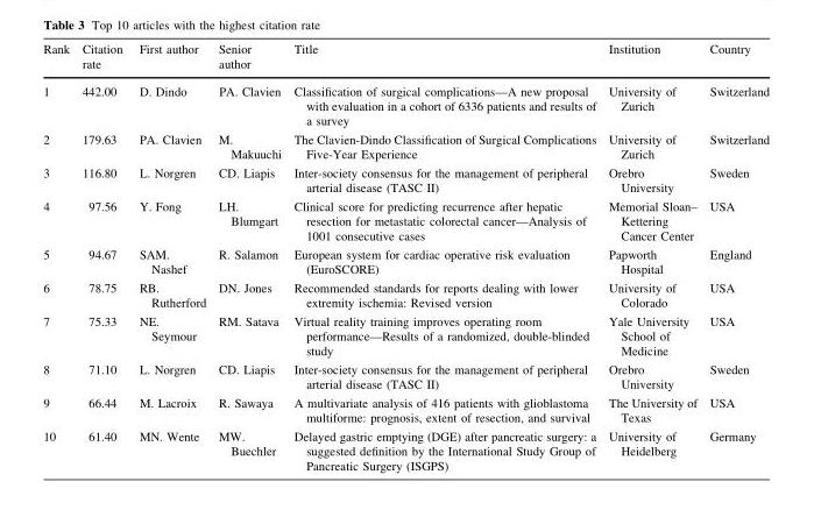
<table><thead><tr><td>Rank</td><td>Citation rate</td><td>First author</td><td>Senior author</td><td>Title</td><td>Institution</td><td>Country</td></tr></thead><tbody><tr><td>1</td><td>442.00</td><td>D. Dindo</td><td>PA. Clavien</td><td>Classification of surgical complications—A new proposal with evaluation in a cohort of 6336 patients and results of a survey</td><td>University of Zurich</td><td>Switzerland</td></tr><tr><td>2</td><td>179.63</td><td>PA. Clavien</td><td>M. Makuuchi</td><td>The Clavien-Dindo Classification of Surgical Complications Five-Year Experience</td><td>University of Zurich</td><td>Switzerland</td></tr><tr><td>3</td><td>116.80</td><td>L. Norgren</td><td>CD. Liapis</td><td>Inter-society consensus for the management of peripheral arterial disease (TASC II)</td><td>Orebro University</td><td>Sweden</td></tr><tr><td>4</td><td>97.56</td><td>Y. Fong</td><td>LH. Blumgart</td><td>Clinical score for predicting recurrence after hepatic resection for metastatic colorectal cancer—Analysis of 1001 consecutive cases</td><td>Memorial Sloan– Kettering Cancer Center</td><td>USA</td></tr><tr><td>5</td><td>94.67</td><td>SAM. Nashef</td><td>R. Salamon</td><td>European system for cardiac operative risk evaluation (EuroSCORE)</td><td>Papworth Hospital</td><td>England</td></tr><tr><td>6</td><td>78.75</td><td>RB. Rutherford</td><td>DN. Jones</td><td>Recommended standards for reports dealing with lower extremity ischemia: Revised version</td><td>University of Colorado</td><td>USA</td></tr><tr><td>7</td><td>75.33</td><td>NE. Seymour</td><td>RM. Satava</td><td>Virtual reality training improves operating room performance—Results of a randomized, double-blinded study</td><td>Yale University School of Medicine</td><td>USA</td></tr><tr><td>8</td><td>71.10</td><td>L. Norgren</td><td>CD. Liapis</td><td>Inter-society consensus for the management of peripheral arterial disease (TASC II)</td><td>Orebro University</td><td>Sweden</td></tr><tr><td>9</td><td>66.44</td><td>M. Lacroix</td><td>R. Sawaya</td><td>A multivariate analysis of 416 patients with glioblastoma multiforme: prognosis, extent of resection, and survival</td><td>The University of Texas</td><td>USA</td></tr><tr><td>10</td><td>61.40</td><td>MN. Wente</td><td>MW. Buechler</td><td>Delayed gastric emptying (DGE) after pancreatic surgery: a suggested definition by the International Study Group of Pancreatic Surgery (ISGPS)</td><td>University of Heidelberg</td><td>Germany</td></tr></tbody></table>